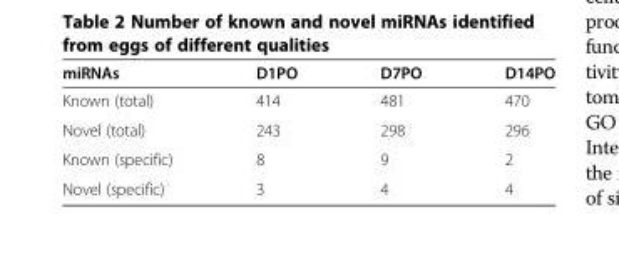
<table><thead><tr><td>miRNAs</td><td>D1PO</td><td>D7PO</td><td>D14PO</td></tr></thead><tbody><tr><td>Known (total)</td><td>414</td><td>481</td><td>470</td></tr><tr><td>Novel (total)</td><td>243</td><td>298</td><td>296</td></tr><tr><td>Known (specific)</td><td>8</td><td>9</td><td>2</td></tr><tr><td>Novel (specific)</td><td>3</td><td>4</td><td>4</td></tr></tbody></table>